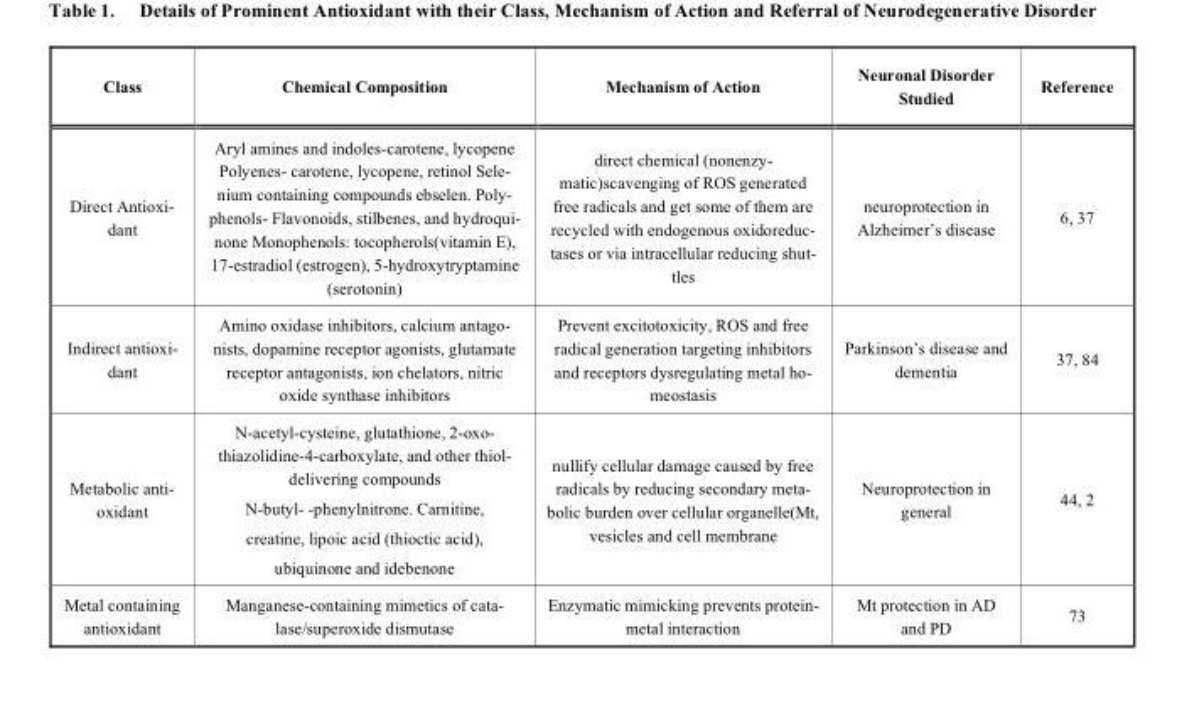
<table><thead><tr><td>Class</td><td>Chemical Composition</td><td>Mechanism of Action</td><td>Neuronal Disorder Studied</td><td>Reference</td></tr></thead><tbody><tr><td>Direct Antioxi- dant</td><td>Aryl amines and indoles-carotene, lycopene Polyenes- carotene, lycopene, retinol Sele- nium containing compounds ebselen. Poly- phenols- Flavonoids, stilbenes, and hydroqui- none Monophenols: tocopherols(vitamin E), 17-estradiol (estrogen), 5-hydroxytryptamine (serotonin)</td><td>direct chemical (nonenzy- matic)scavenging of ROS generated free radicals and get some of them are recycled with endogenous oxidoreduc- tases or via intracellular reducing shut- tles</td><td>neuroprotection in Alzheimer’s disease</td><td>6, 37</td></tr><tr><td>Indirect antioxi- dant</td><td>Amino oxidase inhibitors, calcium antago- nists, dopamine receptor agonists, glutamate receptor antagonists, ion chelators, nitric oxide synthase inhibitors</td><td>Prevent excitotoxicity, ROS and free radical generation targeting inhibitors and receptors dysregulating metal ho- meostasis</td><td>Parkinson’s disease and dementia</td><td>37, 84</td></tr><tr><td>Metabolic anti- oxidant</td><td>N-acetyl-cysteine, glutathione, 2-oxo- thiazolidine-4-carboxylate, and other thiol- delivering compounds N-butyl- -phenylnitrone. Carnitine, creatine, lipoic acid (thioctic acid), ubiquinone and idebenone</td><td>nullify cellular damage caused by free radicals by reducing secondary meta- bolic burden over cellular organelle(Mt, vesicles and cell membrane</td><td>Neuroprotection in general</td><td>44, 2</td></tr><tr><td>Metal containing antioxidant</td><td>Manganese-containing mimetics of cata- lase/superoxide dismutase</td><td>Enzymatic mimicking prevents protein- metal interaction</td><td>Mt protection in AD and PD</td><td>73</td></tr></tbody></table>